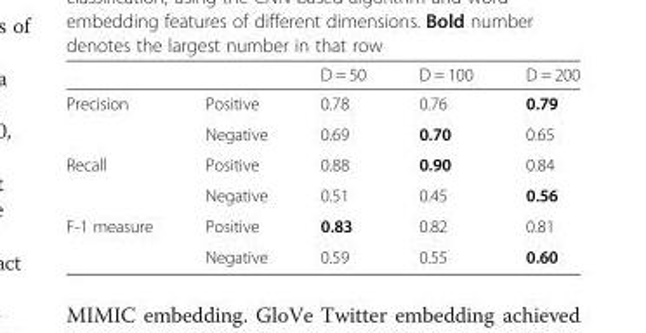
<table><thead><tr><td></td><td></td><td>D = 50</td><td>D = 100</td><td>D = 200</td></tr></thead><tbody><tr><td rowspan="2">Precision</td><td>Positive</td><td>0.78</td><td>0.76</td><td>0.79</td></tr><tr><td>Negative</td><td>0.69</td><td>0.70</td><td>0.65</td></tr><tr><td rowspan="2">Recall</td><td>Positive</td><td>0.88</td><td>0.90</td><td>0.84</td></tr><tr><td>Negative</td><td>0.51</td><td>0.45</td><td>0.56</td></tr><tr><td rowspan="2">F-1 measure</td><td>Positive</td><td>0.83</td><td>0.82</td><td>0.81</td></tr><tr><td>Negative</td><td>0.59</td><td>0.55</td><td>0.60</td></tr></tbody></table>